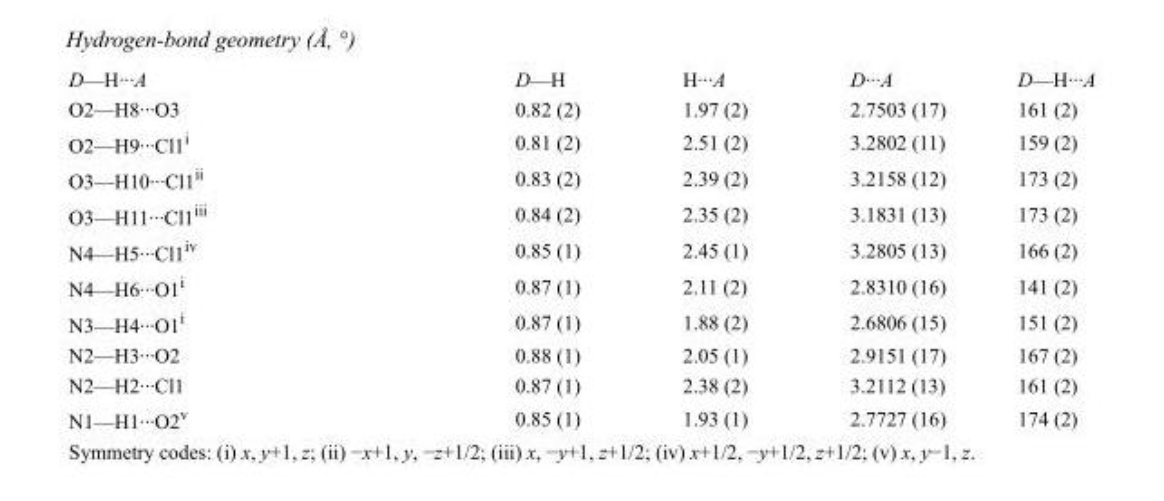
<table><tbody><tr><td>D—H···A</td><td>D—H</td><td>H···A</td><td>D···A</td><td>D—H···A</td></tr><tr><td>O2—H8···O3</td><td>0.82 (2)</td><td>1.97 (2)</td><td>2.7503 (17)</td><td>161 (2)</td></tr><tr><td>O2—H9···Cl1<sup>i</sup></td><td>0.81 (2)</td><td>2.51 (2)</td><td>3.2802 (11)</td><td>159 (2)</td></tr><tr><td>O3—H10···Cl1<sup>ii</sup></td><td>0.83 (2)</td><td>2.39 (2)</td><td>3.2158 (12)</td><td>173 (2)</td></tr><tr><td>O3—H11···Cl1<sup>iii</sup></td><td>0.84 (2)</td><td>2.35 (2)</td><td>3.1831 (13)</td><td>173 (2)</td></tr><tr><td>N4—H5···Cl1<sup>iv</sup></td><td>0.85 (1)</td><td>2.45 (1)</td><td>3.2805 (13)</td><td>166 (2)</td></tr><tr><td>N4—H6···O1<sup>i</sup></td><td>0.87 (1)</td><td>2.11 (2)</td><td>2.8310 (16)</td><td>141 (2)</td></tr><tr><td>N3—H4···O1<sup>i</sup></td><td>0.87 (1)</td><td>1.88 (2)</td><td>2.6806 (15)</td><td>151 (2)</td></tr><tr><td>N2—H3···O2</td><td>0.88 (1)</td><td>2.05 (1)</td><td>2.9151 (17)</td><td>167 (2)</td></tr><tr><td>N2—H2···Cl1</td><td>0.87 (1)</td><td>2.38 (2)</td><td>3.2112 (13)</td><td>161 (2)</td></tr><tr><td>N1—H1···O2<sup>v</sup></td><td>0.85 (1)</td><td>1.93 (1)</td><td>2.7727 (16)</td><td>174 (2)</td></tr></tbody></table>